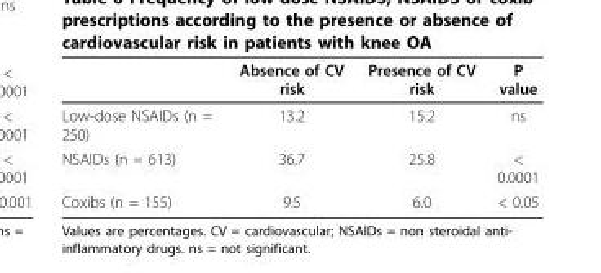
<table><thead><tr><td></td><td>Absence of CV risk</td><td>Presence of CV risk</td><td>P value</td></tr></thead><tbody><tr><td>Low-dose NSAIDs (n = 250)</td><td>13.2</td><td>15.2</td><td>ns</td></tr><tr><td>NSAIDs (n = 613)</td><td>36.7</td><td>25.8</td><td>&lt; 0.0001</td></tr><tr><td>Coxibs (n = 155)</td><td>9.5</td><td>6.0</td><td>&lt; 0.05</td></tr></tbody></table>